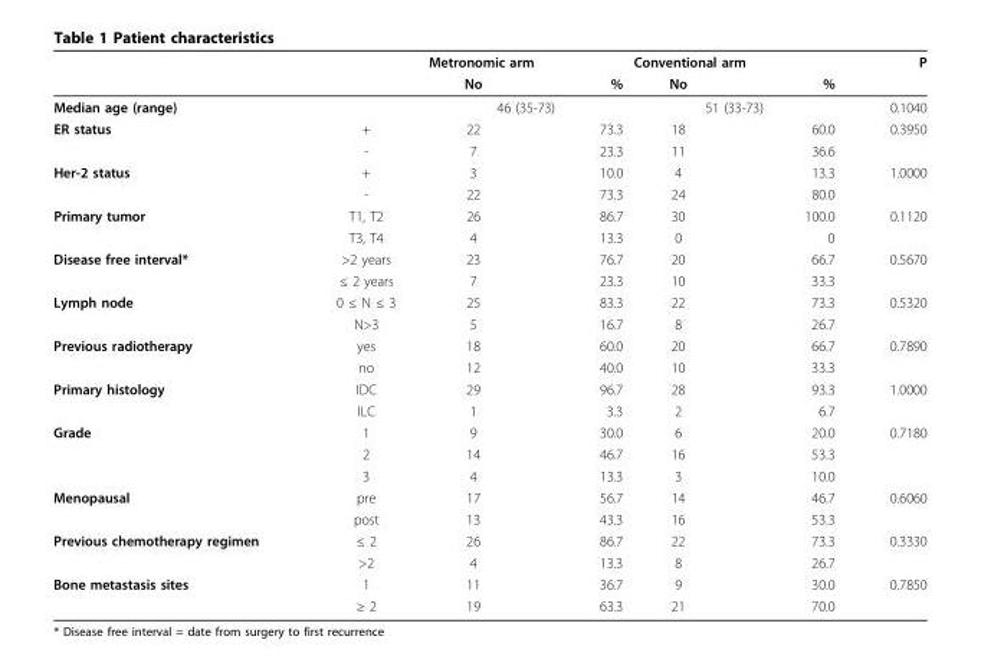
<table><thead><tr><td rowspan="2"></td><td rowspan="2"></td><td colspan="2">Metronomic arm</td><td colspan="2">Conventional arm</td><td rowspan="2">P</td></tr><tr><td>No</td><td>%</td><td>No</td><td>%</td></tr></thead><tbody><tr><td>Median age (range)</td><td></td><td colspan="2">46 (35-73)</td><td colspan="2">51 (33-73)</td><td>0.1040</td></tr><tr><td rowspan="2">ER status</td><td>+</td><td>22</td><td>73.3</td><td>18</td><td>60.0</td><td>0.3950</td></tr><tr><td>-</td><td>7</td><td>23.3</td><td>11</td><td>36.6</td><td></td></tr><tr><td rowspan="2">Her-2 status</td><td>+</td><td>3</td><td>10.0</td><td>4</td><td>13.3</td><td>1.0000</td></tr><tr><td>-</td><td>22</td><td>73.3</td><td>24</td><td>80.0</td><td></td></tr><tr><td rowspan="2">Primary tumor</td><td>T1, T2</td><td>26</td><td>86.7</td><td>30</td><td>100.0</td><td>0.1120</td></tr><tr><td>T3, T4</td><td>4</td><td>13.3</td><td>0</td><td>0</td><td></td></tr><tr><td rowspan="2">Disease free interval*</td><td>&gt;2 years</td><td>23</td><td>76.7</td><td>20</td><td>66.7</td><td>0.5670</td></tr><tr><td>≤ 2 years</td><td>7</td><td>23.3</td><td>10</td><td>33.3</td><td></td></tr><tr><td rowspan="2">Lymph node</td><td>0 ≤ N ≤ 3</td><td>25</td><td>83.3</td><td>22</td><td>73.3</td><td>0.5320</td></tr><tr><td>N&gt;3</td><td>5</td><td>16.7</td><td>8</td><td>26.7</td><td></td></tr><tr><td rowspan="2">Previous radiotherapy</td><td>yes</td><td>18</td><td>60.0</td><td>20</td><td>66.7</td><td>0.7890</td></tr><tr><td>no</td><td>12</td><td>40.0</td><td>10</td><td>33.3</td><td></td></tr><tr><td rowspan="2">Primary histology</td><td>IDC</td><td>29</td><td>96.7</td><td>28</td><td>93.3</td><td>1.0000</td></tr><tr><td>ILC</td><td>1</td><td>3.3</td><td>2</td><td>6.7</td><td></td></tr><tr><td rowspan="3">Grade</td><td>1</td><td>9</td><td>30.0</td><td>6</td><td>20.0</td><td>0.7180</td></tr><tr><td>2</td><td>14</td><td>46.7</td><td>16</td><td>53.3</td><td></td></tr><tr><td>3</td><td>4</td><td>13.3</td><td>3</td><td>10.0</td><td></td></tr><tr><td rowspan="2">Menopausal</td><td>pre</td><td>17</td><td>56.7</td><td>14</td><td>46.7</td><td>0.6060</td></tr><tr><td>post</td><td>13</td><td>43.3</td><td>16</td><td>53.3</td><td></td></tr><tr><td rowspan="2">Previous chemotherapy regimen</td><td>≤ 2</td><td>26</td><td>86.7</td><td>22</td><td>73.3</td><td>0.3330</td></tr><tr><td>&gt;2</td><td>4</td><td>13.3</td><td>8</td><td>26.7</td><td></td></tr><tr><td rowspan="2">Bone metastasis sites</td><td>1</td><td>11</td><td>36.7</td><td>9</td><td>30.0</td><td>0.7850</td></tr><tr><td>≥ 2</td><td>19</td><td>63.3</td><td>21</td><td>70.0</td><td></td></tr></tbody></table>